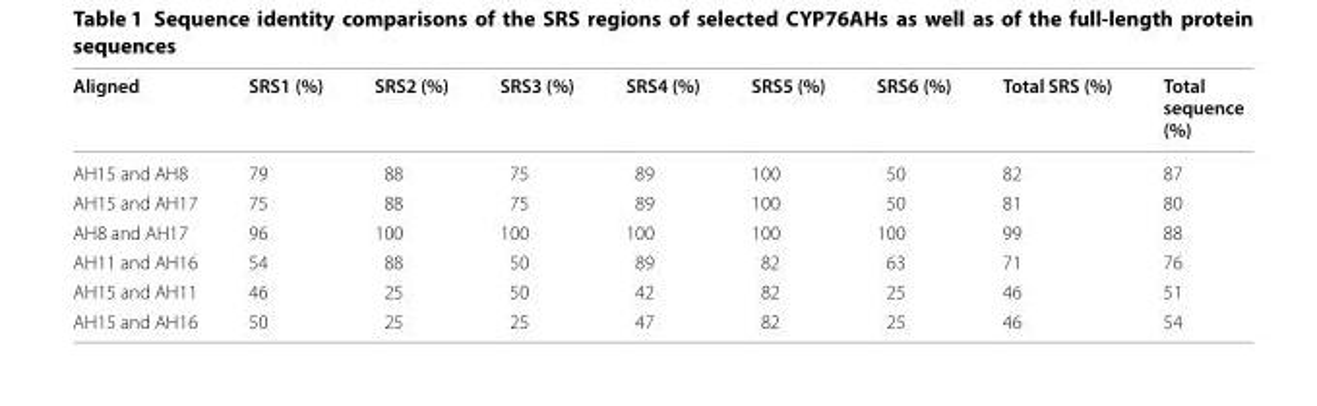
<table><thead><tr><td>Aligned</td><td>SRS1 (%)</td><td>SRS2 (%)</td><td>SRS3 (%)</td><td>SRS4 (%)</td><td>SRS5 (%)</td><td>SRS6 (%)</td><td>Total SRS (%)</td><td>Total sequence (%)</td></tr></thead><tbody><tr><td>AH15 and AH8</td><td>79</td><td>88</td><td>75</td><td>89</td><td>100</td><td>50</td><td>82</td><td>87</td></tr><tr><td>AH15 and AH17</td><td>75</td><td>88</td><td>75</td><td>89</td><td>100</td><td>50</td><td>81</td><td>80</td></tr><tr><td>AH8 and AH17</td><td>96</td><td>100</td><td>100</td><td>100</td><td>100</td><td>100</td><td>99</td><td>88</td></tr><tr><td>AH11 and AH16</td><td>54</td><td>88</td><td>50</td><td>89</td><td>82</td><td>63</td><td>71</td><td>76</td></tr><tr><td>AH15 and AH11</td><td>46</td><td>25</td><td>50</td><td>42</td><td>82</td><td>25</td><td>46</td><td>51</td></tr><tr><td>AH15 and AH16</td><td>50</td><td>25</td><td>25</td><td>47</td><td>82</td><td>25</td><td>46</td><td>54</td></tr></tbody></table>